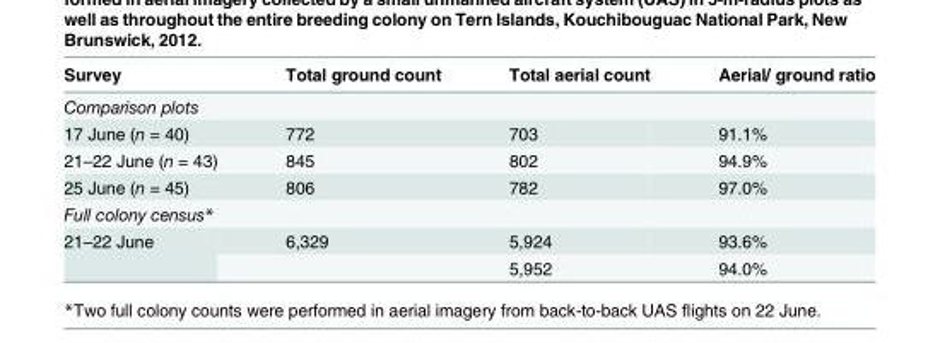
<table><thead><tr><td>Survey</td><td>Total ground count</td><td>Total aerial count</td><td>Aerial/ ground ratio</td></tr></thead><tbody><tr><td colspan="4">Comparison plots</td></tr><tr><td>17 June (n = 40)</td><td>772</td><td>703</td><td>91.1%</td></tr><tr><td>21–22 June (n = 43)</td><td>845</td><td>802</td><td>94.9%</td></tr><tr><td>25 June (n = 45)</td><td>806</td><td>782</td><td>97.0%</td></tr><tr><td colspan="4">Full colony census*</td></tr><tr><td rowspan="2">21–22 June</td><td>6,329</td><td>5,924</td><td>93.6%</td></tr><tr><td></td><td>5,952</td><td>94.0%</td></tr></tbody></table>